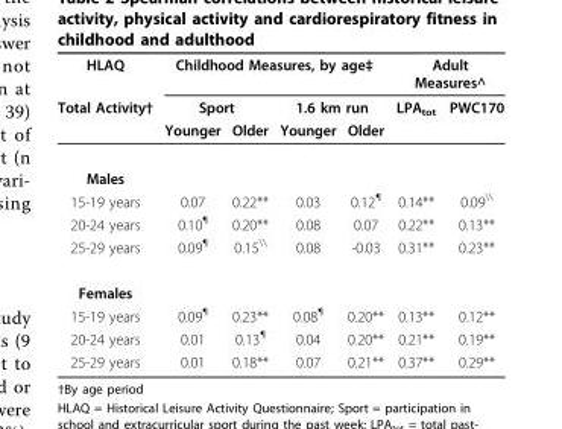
<table><thead><tr><td rowspan="3">HLAQ Total Activity†</td><td colspan="4">Childhood Measures, by age‡</td><td colspan="2">Adult Measures^</td></tr><tr><td colspan="2">Sport</td><td colspan="2">1.6 km run</td><td rowspan="2">LPA<sub>tot</sub></td><td rowspan="2">PWC170</td></tr><tr><td>Younger</td><td>Older</td><td>Younger</td><td>Older</td></tr></thead><tbody><tr><td colspan="7">Males</td></tr><tr><td>15-19 years</td><td>0.07</td><td>0.22**</td><td>0.03</td><td>0.12<sup>¶</sup></td><td>0.14**</td><td>0.09<sup>\\</sup></td></tr><tr><td>20-24 years</td><td>0.10<sup>¶</sup></td><td>0.20**</td><td>0.08</td><td>0.07</td><td>0.22**</td><td>0.13**</td></tr><tr><td>25-29 years</td><td>0.09<sup>¶</sup></td><td>0.15<sup>\\</sup></td><td>0.08</td><td>-0.03</td><td>0.31**</td><td>0.23**</td></tr><tr><td colspan="7">Females</td></tr><tr><td>15-19 years</td><td>0.09<sup>¶</sup></td><td>0.23**</td><td>0.08<sup>¶</sup></td><td>0.20**</td><td>0.13**</td><td>0.12**</td></tr><tr><td>20-24 years</td><td>0.01</td><td>0.13<sup>¶</sup></td><td>0.04</td><td>0.20**</td><td>0.21**</td><td>0.19**</td></tr><tr><td>25-29 years</td><td>0.01</td><td>0.18**</td><td>0.07</td><td>0.21**</td><td>0.37**</td><td>0.29**</td></tr></tbody></table>